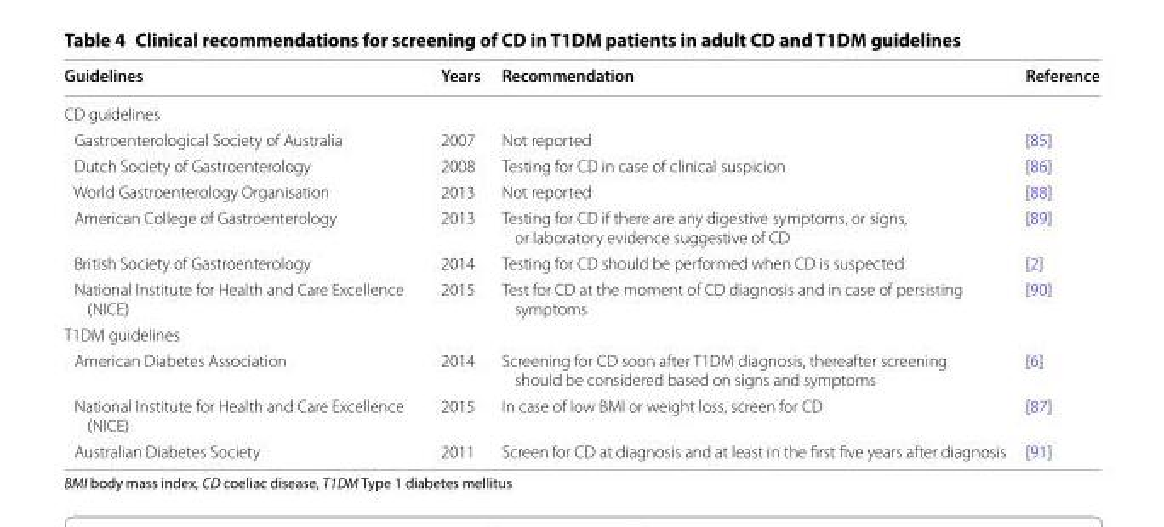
<table><thead><tr><td>Guidelines</td><td>Years</td><td>Recommendation</td><td>Reference</td></tr></thead><tbody><tr><td colspan="4">CD guidelines</td></tr><tr><td>Gastroenterological Society of Australia</td><td>2007</td><td>Not reported</td><td>[85]</td></tr><tr><td>Dutch Society of Gastroenterology</td><td>2008</td><td>Testing for CD in case of clinical suspicion</td><td>[86]</td></tr><tr><td>World Gastroenterology Organisation</td><td>2013</td><td>Not reported</td><td>[88]</td></tr><tr><td>American College of Gastroenterology</td><td>2013</td><td>Testing for CD if there are any digestive symptoms, or signs, or laboratory evidence suggestive of CD</td><td>[89]</td></tr><tr><td>British Society of Gastroenterology</td><td>2014</td><td>Testing for CD should be performed when CD is suspected</td><td>[2]</td></tr><tr><td>National Institute for Health and Care Excellence (NICE)</td><td>2015</td><td>Test for CD at the moment of CD diagnosis and in case of persisting symptoms</td><td>[90]</td></tr><tr><td colspan="4">T1DM guidelines</td></tr><tr><td>American Diabetes Association</td><td>2014</td><td>Screening for CD soon after T1DM diagnosis, thereafter screening should be considered based on signs and symptoms</td><td>[6]</td></tr><tr><td>National Institute for Health and Care Excellence (NICE)</td><td>2015</td><td>In case of low BMI or weight loss, screen for CD</td><td>[87]</td></tr><tr><td>Australian Diabetes Society</td><td>2011</td><td>Screen for CD at diagnosis and at least in the first five years after diagnosis</td><td>[91]</td></tr></tbody></table>